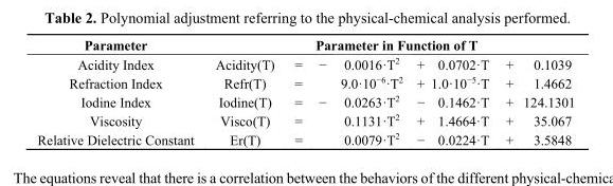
<table><thead><tr><td rowspan="2">Parameter Acidity Index</td><td colspan="8">Parameter in Function of T</td></tr><tr><td>Acidity(T)</td><td>=</td><td>−</td><td>0.0016·T<sup>2</sup></td><td>+</td><td>0.0702·T</td><td>+</td><td>0.1039</td></tr></thead><tbody><tr><td>Refraction Index</td><td>Refr(T)</td><td>=</td><td></td><td>9.0·10<sup>−6</sup>·T<sup>2</sup></td><td>+</td><td>1.0·10<sup>−5</sup>·T</td><td>+</td><td>1.4662</td></tr><tr><td>Iodine Index</td><td>Iodine(T)</td><td>=</td><td>−</td><td>0.0263·T<sup>2</sup></td><td>−</td><td>0.1462·T</td><td>+</td><td>124.1301</td></tr><tr><td>Viscosity</td><td>Visco(T)</td><td>=</td><td></td><td>0.1131·T<sup>2</sup></td><td>+</td><td>1.4664·T</td><td>+</td><td>35.067</td></tr><tr><td>Relative Dielectric Constant</td><td>Er(T)</td><td>=</td><td></td><td>0.0079·T<sup>2</sup></td><td>−</td><td>0.0224·T</td><td>+</td><td>3.5848</td></tr></tbody></table>